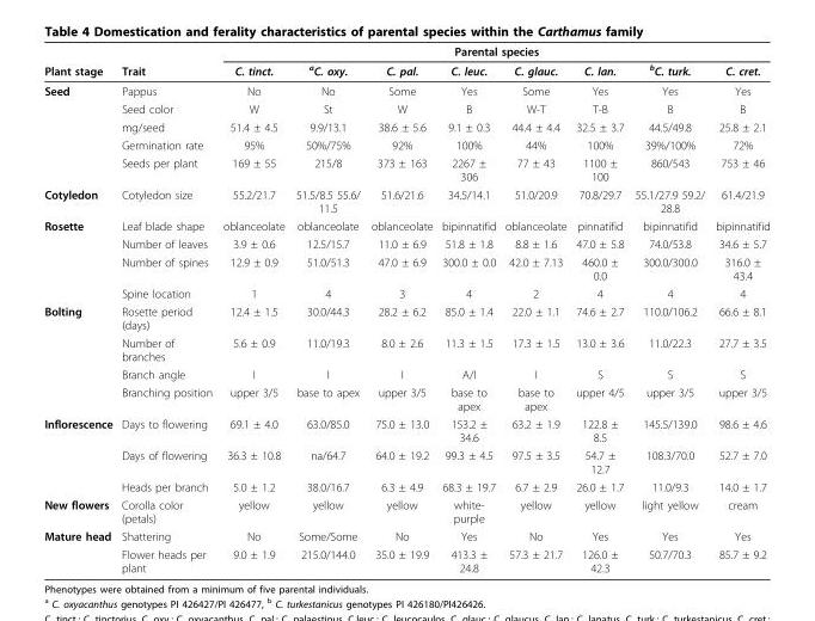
<table><thead><tr><td rowspan="2">Plant stage</td><td rowspan="2">Trait</td><td colspan="8">Parental species</td></tr><tr><td>C. tinct.</td><td><sup>a</sup>C. oxy.</td><td>C. pal.</td><td>C. leuc.</td><td>C. glauc.</td><td>C. lan.</td><td><sup>b</sup>C. turk.</td><td>C. cret.</td></tr></thead><tbody><tr><td rowspan="5">Seed</td><td>Pappus</td><td>No</td><td>No</td><td>Some</td><td>Yes</td><td>Some</td><td>Yes</td><td>Yes</td><td>Yes</td></tr><tr><td>Seed color</td><td>W</td><td>St</td><td>W</td><td>B</td><td>W-T</td><td>T-B</td><td>B</td><td>B</td></tr><tr><td>mg/seed</td><td>51.4 ± 4.5</td><td>9.9/13.1</td><td>38.6 ± 5.6</td><td>9.1 ± 0.3</td><td>44.4 ± 4.4</td><td>32.5 ± 3.7</td><td>44.5/49.8</td><td>25.8 ± 2.1</td></tr><tr><td>Germination rate</td><td>95%</td><td>50%/75%</td><td>92%</td><td>100%</td><td>44%</td><td>100%</td><td>39%/100%</td><td>72%</td></tr><tr><td>Seeds per plant</td><td>169 ± 55</td><td>215/8</td><td>373 ± 163</td><td>2267 ± 306</td><td>77 ± 43</td><td>1100 ± 100</td><td>860/543</td><td>753 ± 46</td></tr><tr><td>Cotyledon</td><td>Cotyledon size</td><td>55.2/21.7</td><td>51.5/8.5 55.6/ 11.5</td><td>51.6/21.6</td><td>34.5/14.1</td><td>51.0/20.9</td><td>70.8/29.7</td><td>55.1/27.9 59.2/ 28.8</td><td>61.4/21.9</td></tr><tr><td rowspan="4">Rosette</td><td>Leaf blade shape</td><td>oblanceolate</td><td>oblanceolate</td><td>oblanceolate</td><td>bipinnatifid</td><td>oblanceolate</td><td>pinnatifid</td><td>bipinnatifid</td><td>bipinnatifid</td></tr><tr><td>Number of leaves</td><td>3.9 ± 0.6</td><td>12.5/15.7</td><td>11.0 ± 6.9</td><td>51.8 ± 1.8</td><td>8.8 ± 1.6</td><td>47.0 ± 5.8</td><td>74.0/53.8</td><td>34.6 ± 5.7</td></tr><tr><td>Number of spines</td><td>12.9 ± 0.9</td><td>51.0/51.3</td><td>47.0 ± 6.9</td><td>300.0 ± 0.0</td><td>42.0 ± 7.13</td><td>460.0 ± 0.0</td><td>300.0/300.0</td><td>316.0 ± 43.4</td></tr><tr><td>Spine location</td><td>1</td><td>4</td><td>3</td><td>4</td><td>2</td><td>4</td><td>4</td><td>4</td></tr><tr><td rowspan="4">Bolting</td><td>Rosette period (days)</td><td>12.4 ± 1.5</td><td>30.0/44.3</td><td>28.2 ± 6.2</td><td>85.0 ± 1.4</td><td>22.0 ± 1.1</td><td>74.6 ± 2.7</td><td>110.0/106.2</td><td>66.6 ± 8.1</td></tr><tr><td>Number of branches</td><td>5.6 ± 0.9</td><td>11.0/19.3</td><td>8.0 ± 2.6</td><td>11.3 ± 1.5</td><td>17.3 ± 1.5</td><td>13.0 ± 3.6</td><td>11.0/22.3</td><td>27.7 ± 3.5</td></tr><tr><td>Branch angle</td><td>I</td><td>I</td><td>I</td><td>A/I</td><td>I</td><td>S</td><td>S</td><td>S</td></tr><tr><td>Branching position</td><td>upper 3/5</td><td>base to apex</td><td>upper 3/5</td><td>base to apex</td><td>base to apex</td><td>upper 4/5</td><td>upper 3/5</td><td>upper 3/5</td></tr><tr><td rowspan="3">Inflorescence</td><td>Days to flowering</td><td>69.1 ± 4.0</td><td>63.0/85.0</td><td>75.0 ± 13.0</td><td>153.2 ± 34.6</td><td>63.2 ± 1.9</td><td>122.8 ± 8.5</td><td>145.5/139.0</td><td>98.6 ± 4.6</td></tr><tr><td>Days of flowering</td><td>36.3 ± 10.8</td><td>na/64.7</td><td>64.0 ± 19.2</td><td>99.3 ± 4.5</td><td>97.5 ± 3.5</td><td>54.7 ± 12.7</td><td>108.3/70.0</td><td>52.7 ± 7.0</td></tr><tr><td>Heads per branch</td><td>5.0 ± 1.2</td><td>38.0/16.7</td><td>6.3 ± 4.9</td><td>68.3 ± 19.7</td><td>6.7 ± 2.9</td><td>26.0 ± 1.7</td><td>11.0/9.3</td><td>14.0 ± 1.7</td></tr><tr><td>New flowers</td><td>Corolla color (petals)</td><td>yellow</td><td>yellow</td><td>yellow</td><td>white- purple</td><td>yellow</td><td>yellow</td><td>light yellow</td><td>cream</td></tr><tr><td rowspan="2">Mature head</td><td>Shattering</td><td>No</td><td>Some/Some</td><td>No</td><td>Yes</td><td>No</td><td>Yes</td><td>Yes</td><td>Yes</td></tr><tr><td>Flower heads per plant</td><td>9.0 ± 1.9</td><td>215.0/144.0</td><td>35.0 ± 19.9</td><td>413.3 ± 24.8</td><td>57.3 ± 21.7</td><td>126.0 ± 42.3</td><td>50.7/70.3</td><td>85.7 ± 9.2</td></tr></tbody></table>